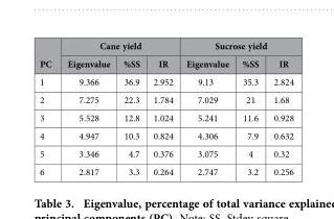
<table><thead><tr><td rowspan="2">PC</td><td colspan="3">Cane yield</td><td colspan="3">Sucrose yield</td></tr><tr><td>Eigenvalue</td><td>%SS</td><td>IR</td><td>Eigenvalue</td><td>%SS</td><td>IR</td></tr></thead><tbody><tr><td>1</td><td>9.366</td><td>36.9</td><td>2.952</td><td>9.13</td><td>35.3</td><td>2.824</td></tr><tr><td>2</td><td>7.275</td><td>22.3</td><td>1.784</td><td>7.029</td><td>21</td><td>1.68</td></tr><tr><td>3</td><td>5.528</td><td>12.8</td><td>1.024</td><td>5.241</td><td>11.6</td><td>0.928</td></tr><tr><td>4</td><td>4.947</td><td>10.3</td><td>0.824</td><td>4.306</td><td>7.9</td><td>0.632</td></tr><tr><td>5</td><td>3.346</td><td>4.7</td><td>0.376</td><td>3.075</td><td>4</td><td>0.32</td></tr><tr><td>6</td><td>2.817</td><td>3.3</td><td>0.264</td><td>2.747</td><td>3.2</td><td>0.256</td></tr></tbody></table>